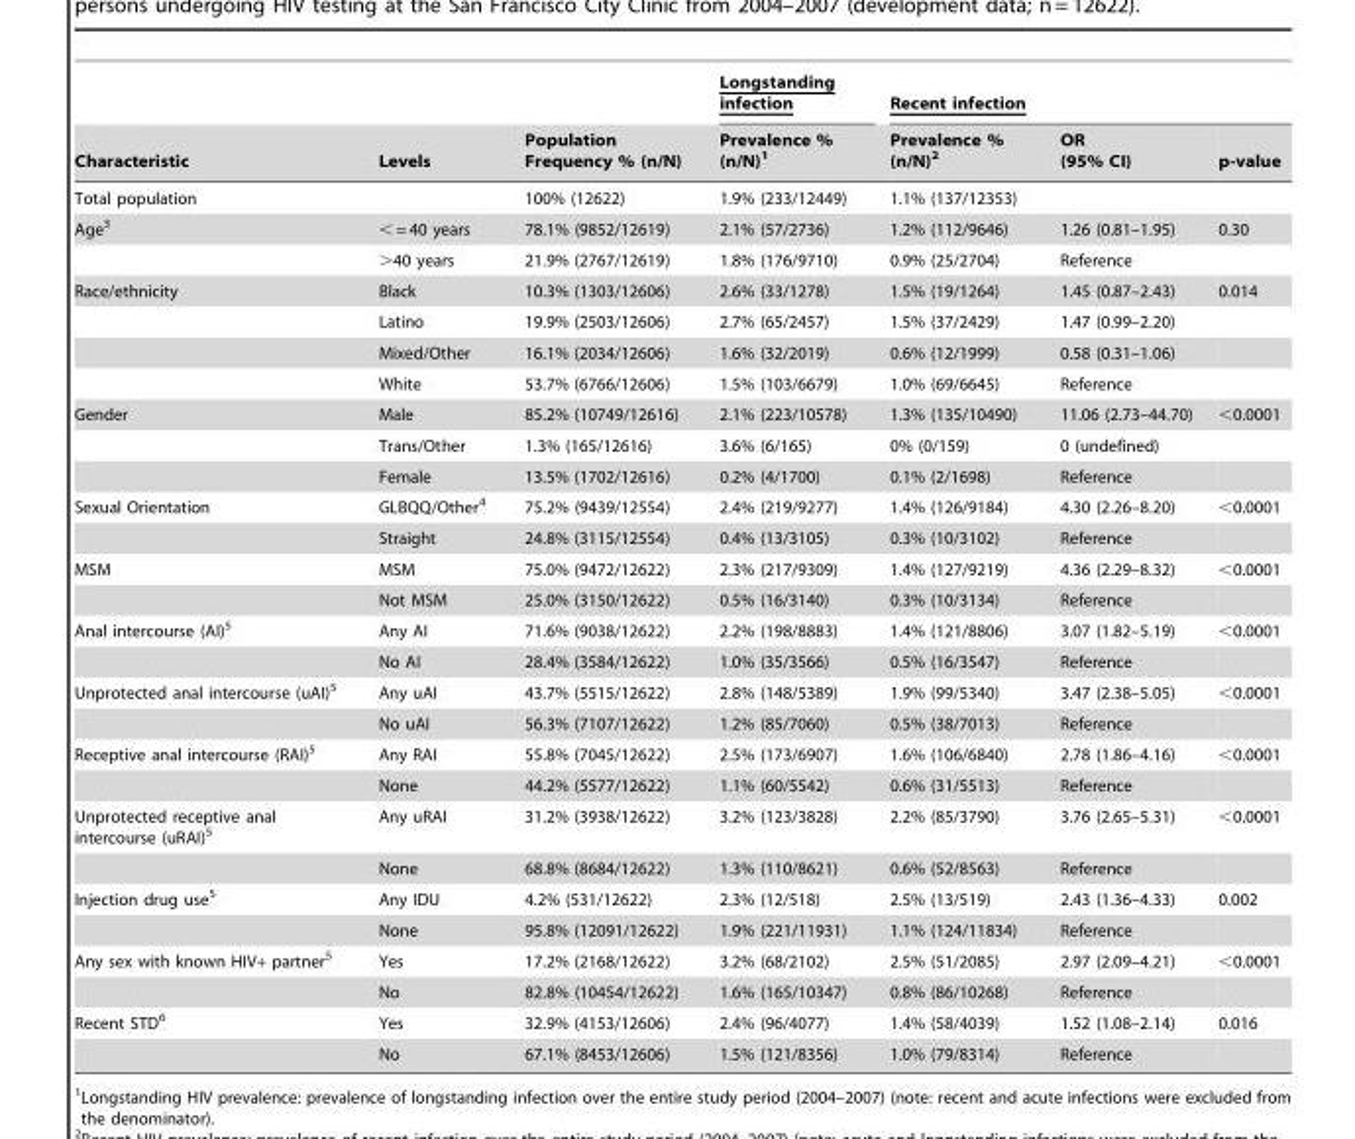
<table><thead><tr><td rowspan="2">Characteristic</td><td rowspan="2">Levels</td><td rowspan="2">Population Frequency % (n/N)</td><td rowspan="2">Longstanding infection Prevalence % (n/N)<sup>1</sup></td><td colspan="3">Recent infection</td></tr><tr><td>Prevalence % (n/N)<sup>2</sup></td><td>OR (95% CI)</td><td>p-value</td></tr></thead><tbody><tr><td>Total population</td><td></td><td>100% (12622)</td><td>1.9% (233/12449)</td><td>1.1% (137/12353)</td><td></td><td></td></tr><tr><td rowspan="2">Age<sup>3</sup></td><td>&lt; = 40 years</td><td>78.1% (9852/12619)</td><td>2.1% (57/2736)</td><td>1.2% (112/9646)</td><td>1.26 (0.81–1.95)</td><td>0.30</td></tr><tr><td>&gt;40 years</td><td>21.9% (2767/12619)</td><td>1.8% (176/9710)</td><td>0.9% (25/2704)</td><td>Reference</td><td></td></tr><tr><td rowspan="4">Race/ethnicity</td><td>Black</td><td>10.3% (1303/12606)</td><td>2.6% (33/1278)</td><td>1.5% (19/1264)</td><td>1.45 (0.87–2.43)</td><td>0.014</td></tr><tr><td>Latino</td><td>19.9% (2503/12606)</td><td>2.7% (65/2457)</td><td>1.5% (37/2429)</td><td>1.47 (0.99–2.20)</td><td></td></tr><tr><td>Mixed/Other</td><td>16.1% (2034/12606)</td><td>1.6% (32/2019)</td><td>0.6% (12/1999)</td><td>0.58 (0.31–1.06)</td><td></td></tr><tr><td>White</td><td>53.7% (6766/12606)</td><td>1.5% (103/6679)</td><td>1.0% (69/6645)</td><td>Reference</td><td></td></tr><tr><td rowspan="3">Gender</td><td>Male</td><td>85.2% (10749/12616)</td><td>2.1% (223/10578)</td><td>1.3% (135/10490)</td><td>11.06 (2.73–44.70)</td><td>&lt;0.0001</td></tr><tr><td>Trans/Other</td><td>1.3% (165/12616)</td><td>3.6% (6/165)</td><td>0% (0/159)</td><td>0 (undefined)</td><td></td></tr><tr><td>Female</td><td>13.5% (1702/12616)</td><td>0.2% (4/1700)</td><td>0.1% (2/1698)</td><td>Reference</td><td></td></tr><tr><td rowspan="2">Sexual Orientation</td><td>GLBQQ/Other<sup>4</sup></td><td>75.2% (9439/12554)</td><td>2.4% (219/9277)</td><td>1.4% (126/9184)</td><td>4.30 (2.26–8.20)</td><td>&lt;0.0001</td></tr><tr><td>Straight</td><td>24.8% (3115/12554)</td><td>0.4% (13/3105)</td><td>0.3% (10/3102)</td><td>Reference</td><td></td></tr><tr><td rowspan="2">MSM</td><td>MSM</td><td>75.0% (9472/12622)</td><td>2.3% (217/9309)</td><td>1.4% (127/9219)</td><td>4.36 (2.29–8.32)</td><td>&lt;0.0001</td></tr><tr><td>Not MSM</td><td>25.0% (3150/12622)</td><td>0.5% (16/3140)</td><td>0.3% (10/3134)</td><td>Reference</td><td></td></tr><tr><td rowspan="2">Anal intercourse (AI)<sup>5</sup></td><td>Any AI</td><td>71.6% (9038/12622)</td><td>2.2% (198/8883)</td><td>1.4% (121/8806)</td><td>3.07 (1.82–5.19)</td><td>&lt;0.0001</td></tr><tr><td>No AI</td><td>28.4% (3584/12622)</td><td>1.0% (35/3566)</td><td>0.5% (16/3547)</td><td>Reference</td><td></td></tr><tr><td rowspan="2">Unprotected anal intercourse (uAI)<sup>5</sup></td><td>Any uAI</td><td>43.7% (5515/12622)</td><td>2.8% (148/5389)</td><td>1.9% (99/5340)</td><td>3.47 (2.38–5.05)</td><td>&lt;0.0001</td></tr><tr><td>No uAI</td><td>56.3% (7107/12622)</td><td>1.2% (85/7060)</td><td>0.5% (38/7013)</td><td>Reference</td><td></td></tr><tr><td rowspan="2">Receptive anal intercourse (RAI)<sup>5</sup></td><td>Any RAI</td><td>55.8% (7045/12622)</td><td>2.5% (173/6907)</td><td>1.6% (106/6840)</td><td>2.78 (1.86–4.16)</td><td>&lt;0.0001</td></tr><tr><td>None</td><td>44.2% (5577/12622)</td><td>1.1% (60/5542)</td><td>0.6% (31/5513)</td><td>Reference</td><td></td></tr><tr><td rowspan="2">Unprotected receptive anal intercourse (uRAI)<sup>5</sup></td><td>Any uRAI</td><td>31.2% (3938/12622)</td><td>3.2% (123/3828)</td><td>2.2% (85/3790)</td><td>3.76 (2.65–5.31)</td><td>&lt;0.0001</td></tr><tr><td>None</td><td>68.8% (8684/12622)</td><td>1.3% (110/8621)</td><td>0.6% (52/8563)</td><td>Reference</td><td></td></tr><tr><td rowspan="2">Injection drug use<sup>5</sup></td><td>Any IDU</td><td>4.2% (531/12622)</td><td>2.3% (12/518)</td><td>2.5% (13/519)</td><td>2.43 (1.36–4.33)</td><td>0.002</td></tr><tr><td>None</td><td>95.8% (12091/12622)</td><td>1.9% (221/11931)</td><td>1.1% (124/11834)</td><td>Reference</td><td></td></tr><tr><td rowspan="2">Any sex with known HIV+ partner<sup>5</sup></td><td>Yes</td><td>17.2% (2168/12622)</td><td>3.2% (68/2102)</td><td>2.5% (51/2085)</td><td>2.97 (2.09–4.21)</td><td>&lt;0.0001</td></tr><tr><td>No</td><td>82.8% (10454/12622)</td><td>1.6% (165/10347)</td><td>0.8% (86/10268)</td><td>Reference</td><td></td></tr><tr><td rowspan="2">Recent STD<sup>6</sup></td><td>Yes</td><td>32.9% (4153/12606)</td><td>2.4% (96/4077)</td><td>1.4% (58/4039)</td><td>1.52 (1.08–2.14)</td><td>0.016</td></tr><tr><td>No</td><td>67.1% (8453/12606)</td><td>1.5% (121/8356)</td><td>1.0% (79/8314)</td><td>Reference</td><td></td></tr></tbody></table>